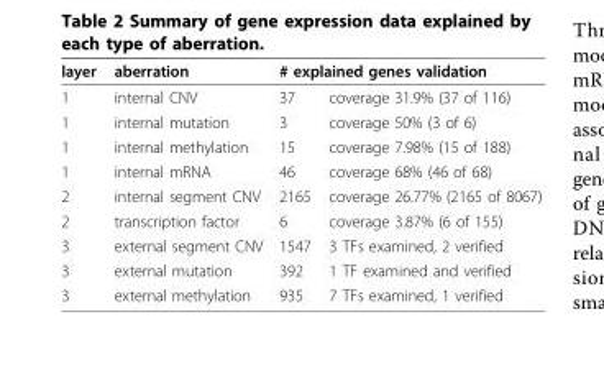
<table><thead><tr><td rowspan="2">layer 1</td><td rowspan="2">aberration internal CNV</td><td colspan="2"># explained genes validation</td></tr><tr><td>37</td><td>coverage 31.9% (37 of 116)</td></tr></thead><tbody><tr><td>1</td><td>internal mutation</td><td>3</td><td>coverage 50% (3 of 6)</td></tr><tr><td>1</td><td>internal methylation</td><td>15</td><td>coverage 7.98% (15 of 188)</td></tr><tr><td>1</td><td>internal mRNA</td><td>46</td><td>coverage 68% (46 of 68)</td></tr><tr><td>2</td><td>internal segment CNV</td><td>2165</td><td>coverage 26.77% (2165 of 8067)</td></tr><tr><td>2</td><td>transcription factor</td><td>6</td><td>coverage 3.87% (6 of 155)</td></tr><tr><td>3</td><td>external segment CNV</td><td>1547</td><td>3 TFs examined, 2 verified</td></tr><tr><td>3</td><td>external mutation</td><td>392</td><td>1 TF examined and verified</td></tr><tr><td>3</td><td>external methylation</td><td>935</td><td>7 TFs examined, 1 verified</td></tr></tbody></table>